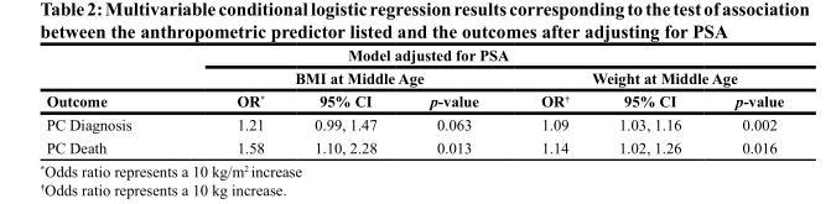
<table><thead><tr><td colspan="7">Model adjusted for PSA</td></tr><tr><td rowspan="2">Outcome</td><td colspan="3">BMI at Middle Age</td><td colspan="3">Weight at Middle Age</td></tr><tr><td>OR*</td><td>95% CI</td><td>p-value</td><td>OR<sup>†</sup></td><td>95% CI</td><td>p-value</td></tr></thead><tbody><tr><td>PC Diagnosis</td><td>1.21</td><td>0.99, 1.47</td><td>0.063</td><td>1.09</td><td>1.03, 1.16</td><td>0.002</td></tr><tr><td>PC Death</td><td>1.58</td><td>1.10, 2.28</td><td>0.013</td><td>1.14</td><td>1.02, 1.26</td><td>0.016</td></tr></tbody></table>